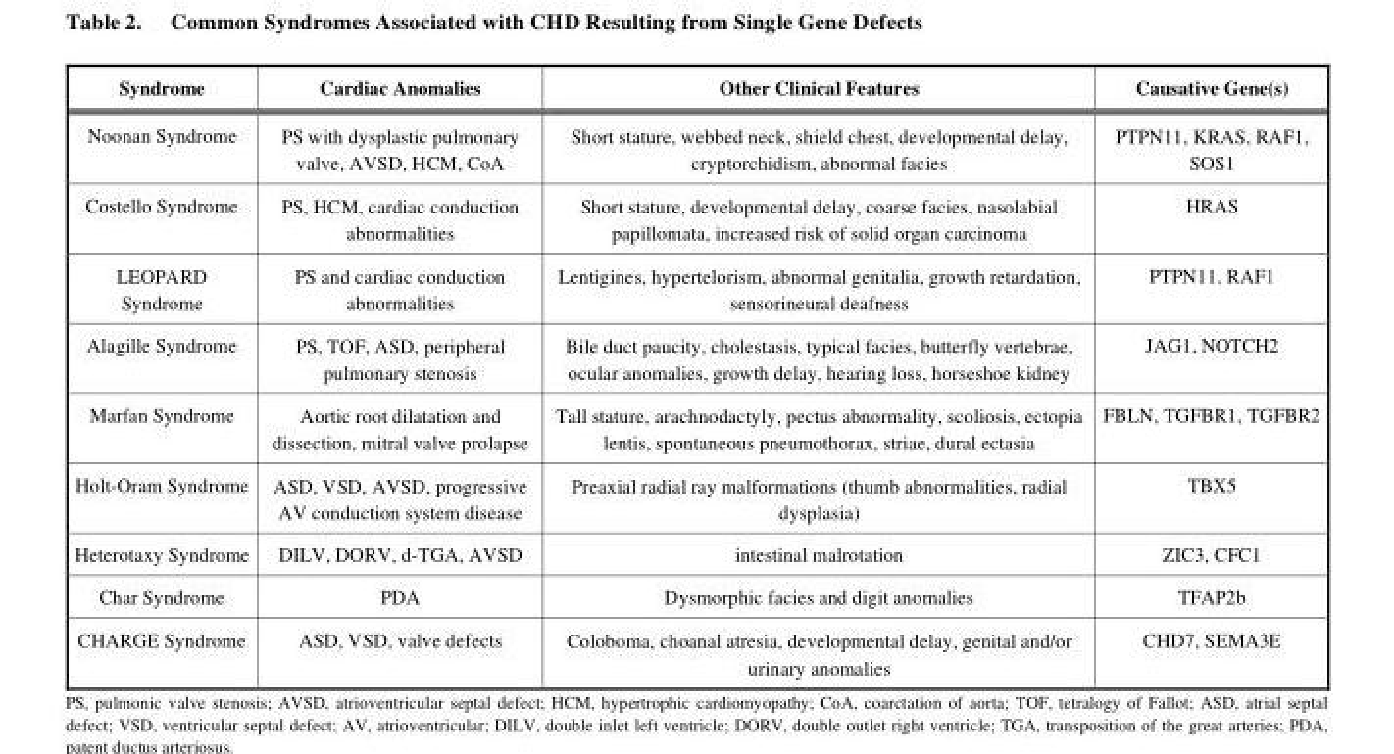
<table><thead><tr><td>Syndrome</td><td>Cardiac Anomalies</td><td>Other Clinical Features</td><td>Causative Gene(s)</td></tr></thead><tbody><tr><td>Noonan Syndrome</td><td>PS with dysplastic pulmonary valve, AVSD, HCM, CoA</td><td>Short stature, webbed neck, shield chest, developmental delay, cryptorchidism, abnormal facies</td><td>PTPN11, KRAS, RAF1, SOS1</td></tr><tr><td>Costello Syndrome</td><td>PS, HCM, cardiac conduction abnormalities</td><td>Short stature, developmental delay, coarse facies, nasolabial papillomata, increased risk of solid organ carcinoma</td><td>HRAS</td></tr><tr><td>LEOPARD Syndrome</td><td>PS and cardiac conduction abnormalities</td><td>Lentigines, hypertelorism, abnormal genitalia, growth retardation, sensorineural deafness</td><td>PTPN11, RAF1</td></tr><tr><td>Alagille Syndrome</td><td>PS, TOF, ASD, peripheral pulmonary stenosis</td><td>Bile duct paucity, cholestasis, typical facies, butterfly vertebrae, ocular anomalies, growth delay, hearing loss, horseshoe kidney</td><td>JAG1, NOTCH2</td></tr><tr><td>Marfan Syndrome</td><td>Aortic root dilatation and dissection, mitral valve prolapse</td><td>Tall stature, arachnodactyly, pectus abnormality, scoliosis, ectopia lentis, spontaneous pneumothorax, striae, dural ectasia</td><td>FBLN, TGFBR1, TGFBR2</td></tr><tr><td>Holt-Oram Syndrome</td><td>ASD, VSD, AVSD, progressive AV conduction system disease</td><td>Preaxial radial ray malformations (thumb abnormalities, radial dysplasia)</td><td>TBX5</td></tr><tr><td>Heterotaxy Syndrome</td><td>DILV, DORV, d-TGA, AVSD</td><td>intestinal malrotation</td><td>ZIC3, CFC1</td></tr><tr><td>Char Syndrome</td><td>PDA</td><td>Dysmorphic facies and digit anomalies</td><td>TFAP2b</td></tr><tr><td>CHARGE Syndrome</td><td>ASD, VSD, valve defects</td><td>Coloboma, choanal atresia, developmental delay, genital and/or urinary anomalies</td><td>CHD7, SEMA3E</td></tr></tbody></table>